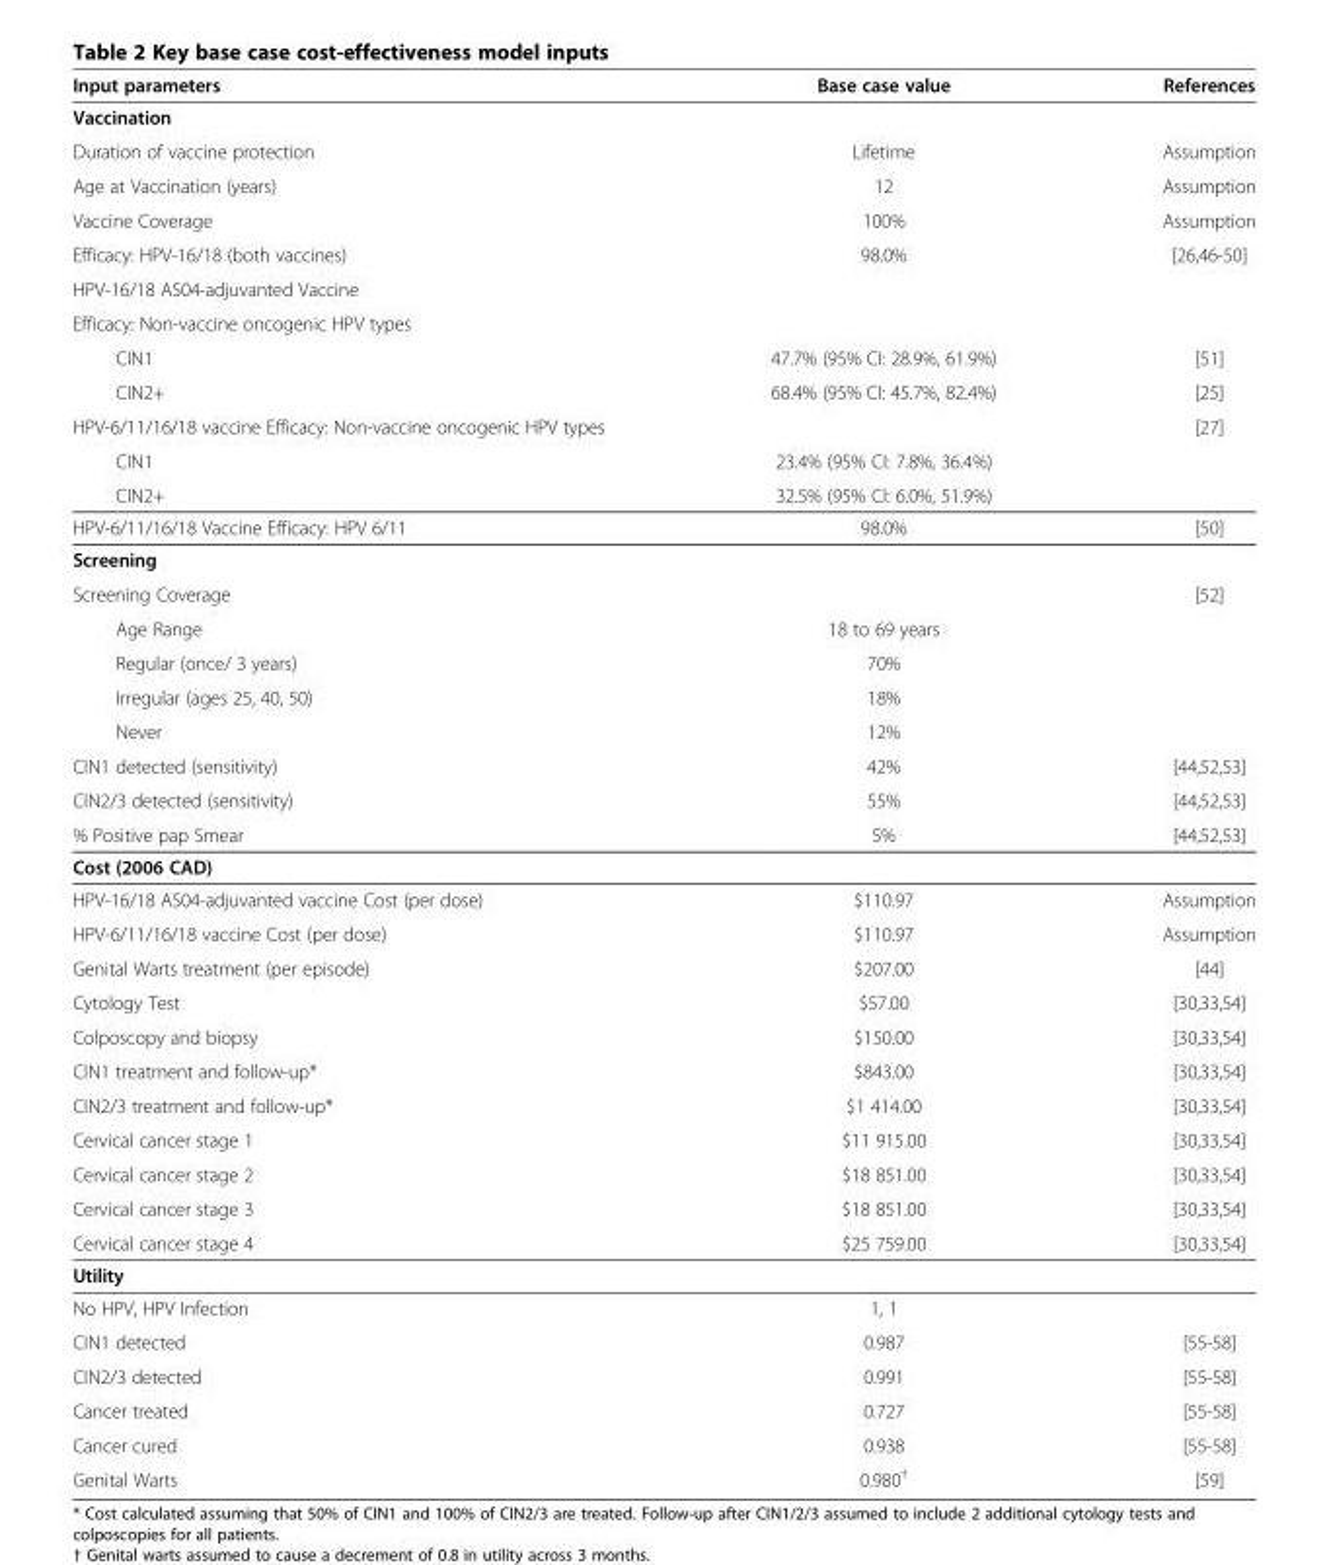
<table><thead><tr><td>Input parameters</td><td>Base case value</td><td>References</td></tr></thead><tbody><tr><td colspan="3">Vaccination</td></tr><tr><td>Duration of vaccine protection</td><td>Lifetime</td><td>Assumption</td></tr><tr><td>Age at Vaccination (years)</td><td>12</td><td>Assumption</td></tr><tr><td>Vaccine Coverage</td><td>100%</td><td>Assumption</td></tr><tr><td>Efficacy: HPV-16/18 (both vaccines)</td><td>98.0%</td><td>[26,46-50]</td></tr><tr><td colspan="3">HPV-16/18 AS04-adjuvanted Vaccine</td></tr><tr><td colspan="3">Efficacy: Non-vaccine oncogenic HPV types</td></tr><tr><td>CIN1</td><td>47.7% (95% CI: 28.9%, 61.9%)</td><td>[51]</td></tr><tr><td>CIN2+</td><td>68.4% (95% CI: 45.7%, 82.4%)</td><td>[25]</td></tr><tr><td>HPV-6/11/16/18 vaccine Efficacy: Non-vaccine oncogenic HPV types</td><td></td><td>[27]</td></tr><tr><td>CIN1</td><td>23.4% (95% CI: 7.8%, 36.4%)</td><td></td></tr><tr><td>CIN2+</td><td>32.5% (95% CI: 6.0%, 51.9%)</td><td></td></tr><tr><td>HPV-6/11/16/18 Vaccine Efficacy: HPV 6/11</td><td>98.0%</td><td>[50]</td></tr><tr><td colspan="3">Screening</td></tr><tr><td>Screening Coverage</td><td></td><td>[52]</td></tr><tr><td>Age Range</td><td>18 to 69 years</td><td></td></tr><tr><td>Regular (once/ 3 years)</td><td>70%</td><td></td></tr><tr><td>Irregular (ages 25, 40, 50)</td><td>18%</td><td></td></tr><tr><td>Never</td><td>12%</td><td></td></tr><tr><td>CIN1 detected (sensitivity)</td><td>42%</td><td>[44,52,53]</td></tr><tr><td>CIN2/3 detected (sensitivity)</td><td>55%</td><td>[44,52,53]</td></tr><tr><td>% Positive pap Smear</td><td>5%</td><td>[44,52,53]</td></tr><tr><td colspan="3">Cost (2006 CAD)</td></tr><tr><td>HPV-16/18 AS04-adjuvanted vaccine Cost (per dose)</td><td>$110.97</td><td>Assumption</td></tr><tr><td>HPV-6/11/16/18 vaccine Cost (per dose)</td><td>$110.97</td><td>Assumption</td></tr><tr><td>Genital Warts treatment (per episode)</td><td>$207.00</td><td>[44]</td></tr><tr><td>Cytology Test</td><td>$57.00</td><td>[30,33,54]</td></tr><tr><td>Colposcopy and biopsy</td><td>$150.00</td><td>[30,33,54]</td></tr><tr><td>CIN1 treatment and follow-up*</td><td>$843.00</td><td>[30,33,54]</td></tr><tr><td>CIN2/3 treatment and follow-up*</td><td>$1 414.00</td><td>[30,33,54]</td></tr><tr><td>Cervical cancer stage 1</td><td>$11 915.00</td><td>[30,33,54]</td></tr><tr><td>Cervical cancer stage 2</td><td>$18 851.00</td><td>[30,33,54]</td></tr><tr><td>Cervical cancer stage 3</td><td>$18 851.00</td><td>[30,33,54]</td></tr><tr><td>Cervical cancer stage 4</td><td>$25 759.00</td><td>[30,33,54]</td></tr><tr><td colspan="3">Utility</td></tr><tr><td>No HPV, HPV Infection</td><td>1, 1</td><td></td></tr><tr><td>CIN1 detected</td><td>0.987</td><td>[55-58]</td></tr><tr><td>CIN2/3 detected</td><td>0.991</td><td>[55-58]</td></tr><tr><td>Cancer treated</td><td>0.727</td><td>[55-58]</td></tr><tr><td>Cancer cured</td><td>0.938</td><td>[55-58]</td></tr><tr><td>Genital Warts</td><td>0.980<sup>†</sup></td><td>[59]</td></tr></tbody></table>